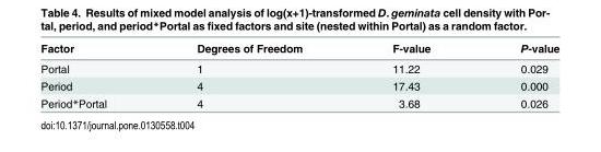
<table><thead><tr><td>Factor</td><td>Degrees of Freedom</td><td>F-value</td><td>P-value</td></tr></thead><tbody><tr><td>Portal</td><td>1</td><td>11.22</td><td>0.029</td></tr><tr><td>Period</td><td>4</td><td>17.43</td><td>0.000</td></tr><tr><td>Period*Portal</td><td>4</td><td>3.68</td><td>0.026</td></tr></tbody></table>